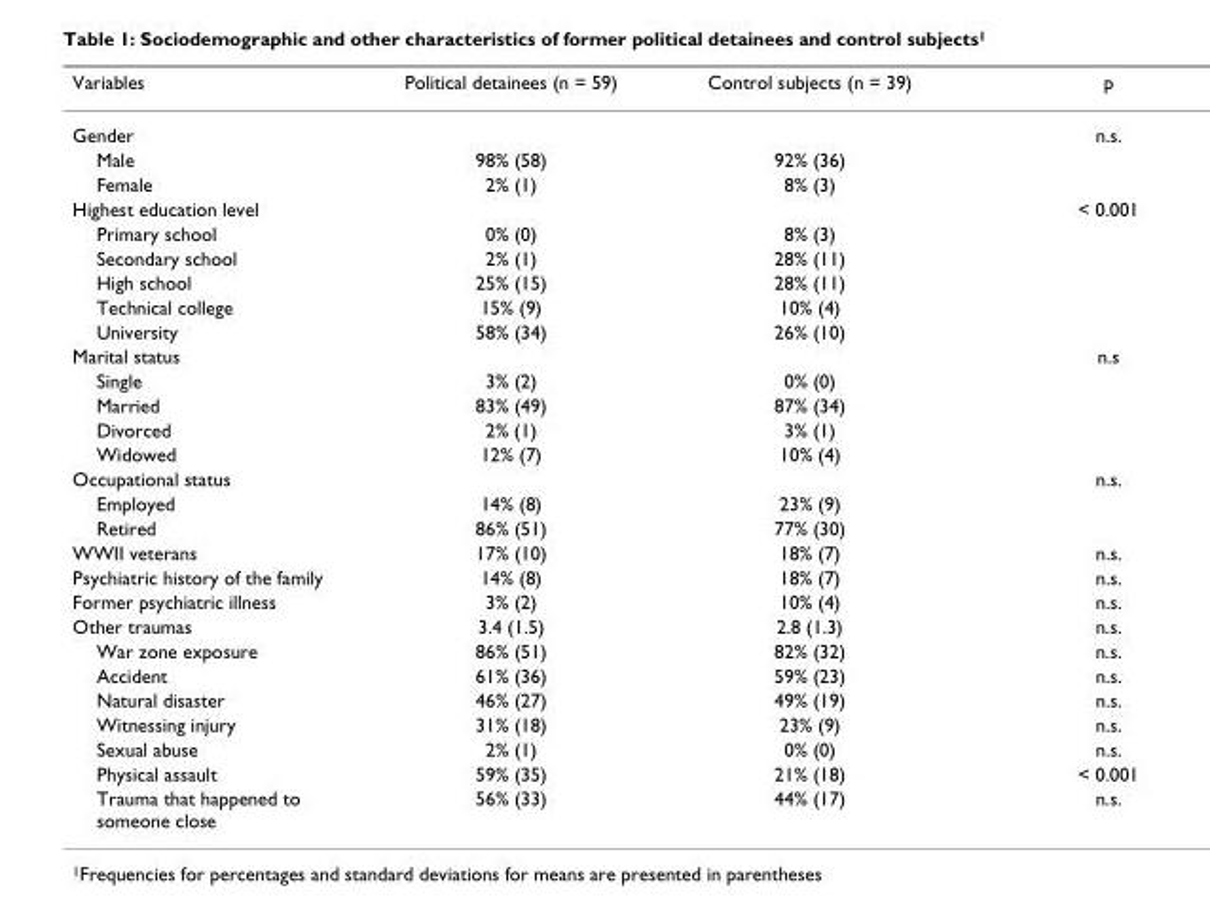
<table><thead><tr><td>Variables</td><td>Political detainees (n = 59)</td><td>Control subjects (n = 39)</td><td>p</td></tr></thead><tbody><tr><td>Gender</td><td></td><td></td><td>n.s.</td></tr><tr><td>Male</td><td>98% (58)</td><td>92% (36)</td><td></td></tr><tr><td>Female</td><td>2% (1)</td><td>8% (3)</td><td></td></tr><tr><td>Highest education level</td><td></td><td></td><td>&lt; 0.001</td></tr><tr><td>Primary school</td><td>0% (0)</td><td>8% (3)</td><td></td></tr><tr><td>Secondary school</td><td>2% (1)</td><td>28% (11)</td><td></td></tr><tr><td>High school</td><td>25% (15)</td><td>28% (11)</td><td></td></tr><tr><td>Technical college</td><td>15% (9)</td><td>10% (4)</td><td></td></tr><tr><td>University</td><td>58% (34)</td><td>26% (10)</td><td></td></tr><tr><td>Marital status</td><td></td><td></td><td>n.s</td></tr><tr><td>Single</td><td>3% (2)</td><td>0% (0)</td><td></td></tr><tr><td>Married</td><td>83% (49)</td><td>87% (34)</td><td></td></tr><tr><td>Divorced</td><td>2% (1)</td><td>3% (1)</td><td></td></tr><tr><td>Widowed</td><td>12% (7)</td><td>10% (4)</td><td></td></tr><tr><td>Occupational status</td><td></td><td></td><td>n.s.</td></tr><tr><td>Employed</td><td>14% (8)</td><td>23% (9)</td><td></td></tr><tr><td>Retired</td><td>86% (51)</td><td>77% (30)</td><td></td></tr><tr><td>WWII veterans</td><td>17% (10)</td><td>18% (7)</td><td>n.s.</td></tr><tr><td>Psychiatric history of the family</td><td>14% (8)</td><td>18% (7)</td><td>n.s.</td></tr><tr><td>Former psychiatric illness</td><td>3% (2)</td><td>10% (4)</td><td>n.s.</td></tr><tr><td>Other traumas</td><td>3.4 (1.5)</td><td>2.8 (1.3)</td><td>n.s.</td></tr><tr><td>War zone exposure</td><td>86% (51)</td><td>82% (32)</td><td>n.s.</td></tr><tr><td>Accident</td><td>61% (36)</td><td>59% (23)</td><td>n.s.</td></tr><tr><td>Natural disaster</td><td>46% (27)</td><td>49% (19)</td><td>n.s.</td></tr><tr><td>Witnessing injury</td><td>31% (18)</td><td>23% (9)</td><td>n.s.</td></tr><tr><td>Sexual abuse</td><td>2% (1)</td><td>0% (0)</td><td>n.s.</td></tr><tr><td>Physical assault</td><td>59% (35)</td><td>21% (18)</td><td>&lt; 0.001</td></tr><tr><td>Trauma that happened to someone close</td><td>56% (33)</td><td>44% (17)</td><td>n.s.</td></tr></tbody></table>